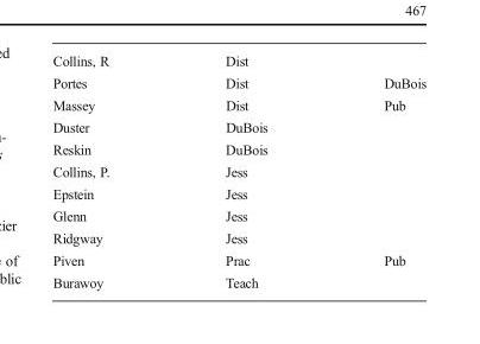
<table><tbody><tr><td>Collins, R</td><td>Dist</td><td></td></tr><tr><td>Portes</td><td>Dist</td><td>DuBois</td></tr><tr><td>Massey</td><td>Dist</td><td>Pub</td></tr><tr><td>Duster</td><td>DuBois</td><td></td></tr><tr><td>Reskin</td><td>DuBois</td><td></td></tr><tr><td>Collins, P.</td><td>Jess</td><td></td></tr><tr><td>Epstein</td><td>Jess</td><td></td></tr><tr><td>Glenn</td><td>Jess</td><td></td></tr><tr><td>Ridgway</td><td>Jess</td><td></td></tr><tr><td>Piven</td><td>Prac</td><td>Pub</td></tr><tr><td>Burawoy</td><td>Teach</td><td></td></tr></tbody></table>